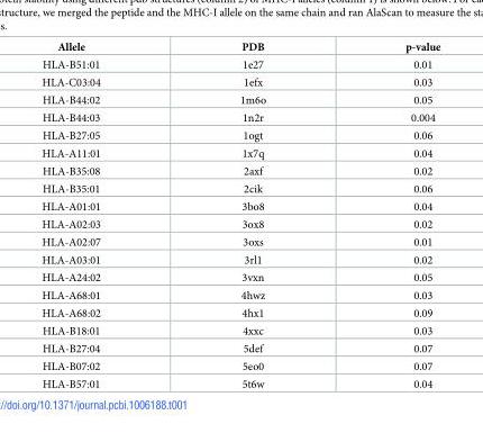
<table><thead><tr><td>Allele</td><td>PDB</td><td>p-value</td></tr></thead><tbody><tr><td>HLA-B51:01</td><td>1e27</td><td>0.01</td></tr><tr><td>HLA-C03:04</td><td>1efx</td><td>0.03</td></tr><tr><td>HLA-B44:02</td><td>1m6o</td><td>0.05</td></tr><tr><td>HLA-B44:03</td><td>1n2r</td><td>0.004</td></tr><tr><td>HLA-B27:05</td><td>1ogt</td><td>0.06</td></tr><tr><td>HLA-A11:01</td><td>1x7q</td><td>0.04</td></tr><tr><td>HLA-B35:08</td><td>2axf</td><td>0.02</td></tr><tr><td>HLA-B35:01</td><td>2cik</td><td>0.06</td></tr><tr><td>HLA-A01:01</td><td>3bo8</td><td>0.04</td></tr><tr><td>HLA-A02:03</td><td>3ox8</td><td>0.02</td></tr><tr><td>HLA-A02:07</td><td>3oxs</td><td>0.01</td></tr><tr><td>HLA-A03:01</td><td>3rl1</td><td>0.02</td></tr><tr><td>HLA-A24:02</td><td>3vxn</td><td>0.05</td></tr><tr><td>HLA-A68:01</td><td>4hwz</td><td>0.03</td></tr><tr><td>HLA-A68:02</td><td>4hx1</td><td>0.09</td></tr><tr><td>HLA-B18:01</td><td>4xxc</td><td>0.03</td></tr><tr><td>HLA-B27:04</td><td>5def</td><td>0.07</td></tr><tr><td>HLA-B07:02</td><td>5eo0</td><td>0.07</td></tr><tr><td>HLA-B57:01</td><td>5t6w</td><td>0.04</td></tr></tbody></table>